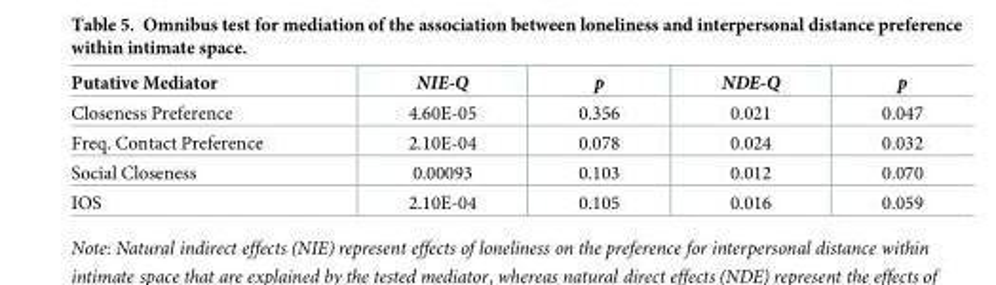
<table><thead><tr><td>Putative Mediator</td><td>NIE-Q</td><td>p</td><td>NDE-Q</td><td>p</td></tr></thead><tbody><tr><td>Closeness Preference</td><td>4.60E-05</td><td>0.356</td><td>0.021</td><td>0.047</td></tr><tr><td>Freq. Contact Preference</td><td>2.10E-04</td><td>0.078</td><td>0.024</td><td>0.032</td></tr><tr><td>Social Closeness</td><td>0.00093</td><td>0.103</td><td>0.012</td><td>0.070</td></tr><tr><td>IOS</td><td>2.10E-04</td><td>0.105</td><td>0.016</td><td>0.059</td></tr></tbody></table>